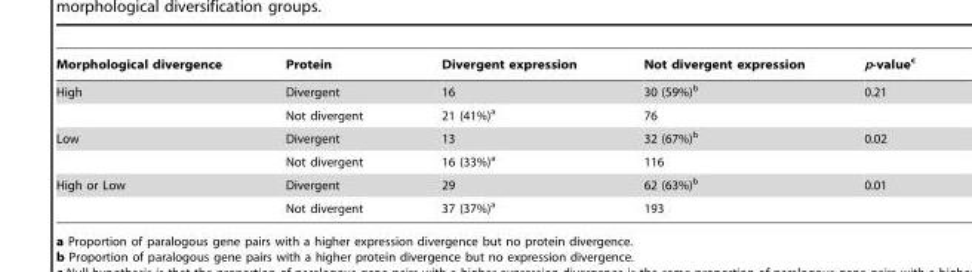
<table><thead><tr><td>Morphological divergence</td><td>Protein</td><td>Divergent expression</td><td>Not divergent expression</td><td>p-value<sup>c</sup></td></tr></thead><tbody><tr><td rowspan="2">High</td><td>Divergent</td><td>16</td><td>30 (59%)<sup>b</sup></td><td>0.21</td></tr><tr><td>Not divergent</td><td>21 (41%)<sup>a</sup></td><td>76</td><td></td></tr><tr><td rowspan="2">Low</td><td>Divergent</td><td>13</td><td>32 (67%)<sup>b</sup></td><td>0.02</td></tr><tr><td>Not divergent</td><td>16 (33%)<sup>a</sup></td><td>116</td><td></td></tr><tr><td rowspan="2">High or Low</td><td>Divergent</td><td>29</td><td>62 (63%)<sup>b</sup></td><td>0.01</td></tr><tr><td>Not divergent</td><td>37 (37%)<sup>a</sup></td><td>193</td><td></td></tr></tbody></table>